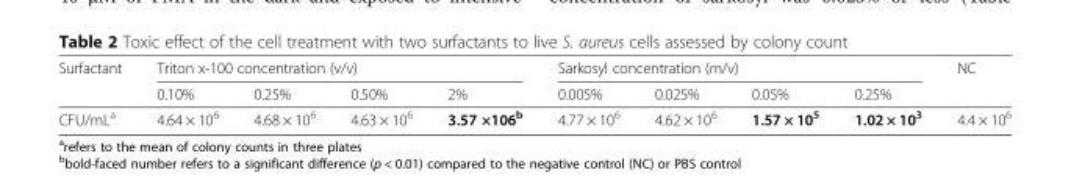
<table><thead><tr><td rowspan="2">Surfactant</td><td colspan="4">Triton x-100 concentration (v/v)</td><td colspan="4">Sarkosyl concentration (m/v)</td><td rowspan="2">NC</td></tr><tr><td>0.10%</td><td>0.25%</td><td>0.50%</td><td>2%</td><td>0.005%</td><td>0.025%</td><td>0.05%</td><td>0.25%</td></tr></thead><tbody><tr><td>CFU/mL<sup>a</sup></td><td>4.64 × 10<sup>6</sup></td><td>4.68 × 10<sup>6</sup></td><td>4.63 × 10<sup>6</sup></td><td>3.57 ×106<sup>b</sup></td><td>4.77 × 10<sup>6</sup></td><td>4.62 × 10<sup>6</sup></td><td>1.57 × 10<sup>5</sup></td><td>1.02 × 10<sup>3</sup></td><td>4.4 × 10<sup>6</sup></td></tr></tbody></table>